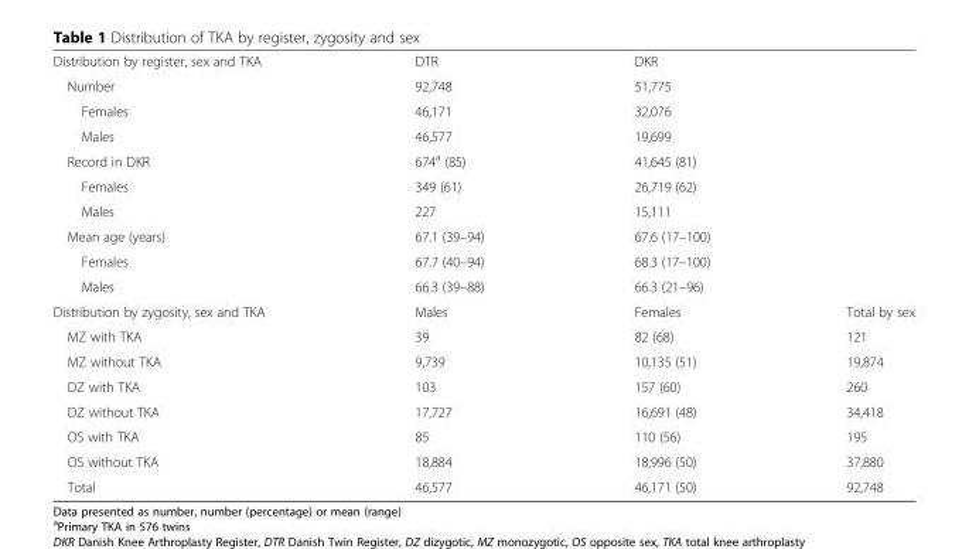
<table><tbody><tr><td>Distribution by register, sex and TKA</td><td>DTR</td><td colspan="2">DKR</td></tr><tr><td>Number</td><td>92,748</td><td colspan="2">51,775</td></tr><tr><td>Females</td><td>46,171</td><td colspan="2">32,076</td></tr><tr><td>Males</td><td>46,577</td><td colspan="2">19,699</td></tr><tr><td>Record in DKR</td><td>674<sup>a</sup> (85)</td><td colspan="2">41,645 (81)</td></tr><tr><td>Females</td><td>349 (61)</td><td colspan="2">26,719 (62)</td></tr><tr><td>Males</td><td>227</td><td colspan="2">15,111</td></tr><tr><td>Mean age (years)</td><td>67.1 (39–94)</td><td colspan="2">67.6 (17–100)</td></tr><tr><td>Females</td><td>67.7 (40–94)</td><td colspan="2">68.3 (17–100)</td></tr><tr><td>Males</td><td>66.3 (39–88)</td><td colspan="2">66.3 (21–96)</td></tr><tr><td>Distribution by zygosity, sex and TKA</td><td>Males</td><td>Females</td><td>Total by sex</td></tr><tr><td>MZ with TKA</td><td>39</td><td>82 (68)</td><td>121</td></tr><tr><td>MZ without TKA</td><td>9,739</td><td>10,135 (51)</td><td>19,874</td></tr><tr><td>DZ with TKA</td><td>103</td><td>157 (60)</td><td>260</td></tr><tr><td>DZ without TKA</td><td>17,727</td><td>16,691 (48)</td><td>34,418</td></tr><tr><td>OS with TKA</td><td>85</td><td>110 (56)</td><td>195</td></tr><tr><td>OS without TKA</td><td>18,884</td><td>18,996 (50)</td><td>37,880</td></tr><tr><td>Total</td><td>46,577</td><td>46,171 (50)</td><td>92,748</td></tr></tbody></table>